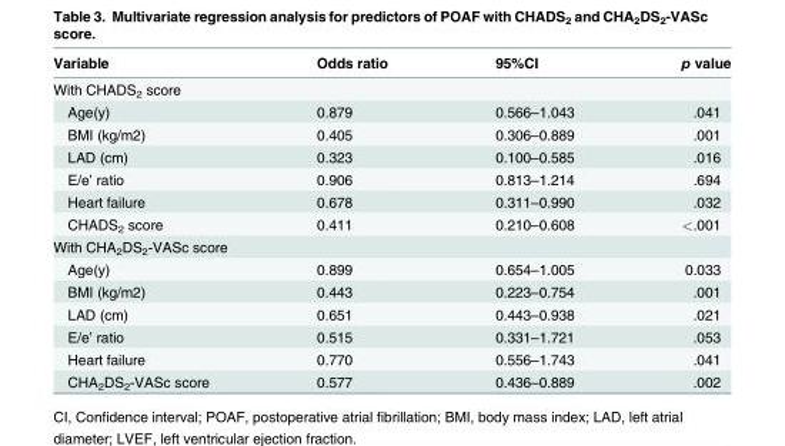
<table><thead><tr><td>Variable</td><td>Odds ratio</td><td>95%CI</td><td>p value</td></tr></thead><tbody><tr><td colspan="4">With CHADS<sub>2</sub> score</td></tr><tr><td>Age(y)</td><td>0.879</td><td>0.566–1.043</td><td>.041</td></tr><tr><td>BMI (kg/m2)</td><td>0.405</td><td>0.306–0.889</td><td>.001</td></tr><tr><td>LAD (cm)</td><td>0.323</td><td>0.100–0.585</td><td>.016</td></tr><tr><td>E/e’ ratio</td><td>0.906</td><td>0.813–1.214</td><td>.694</td></tr><tr><td>Heart failure</td><td>0.678</td><td>0.311–0.990</td><td>.032</td></tr><tr><td>CHADS<sub>2</sub> score</td><td>0.411</td><td>0.210–0.608</td><td>&lt;.001</td></tr><tr><td colspan="4">With CHA<sub>2</sub>DS<sub>2</sub>-VASc score</td></tr><tr><td>Age(y)</td><td>0.899</td><td>0.654–1.005</td><td>0.033</td></tr><tr><td>BMI (kg/m2)</td><td>0.443</td><td>0.223–0.754</td><td>.001</td></tr><tr><td>LAD (cm)</td><td>0.651</td><td>0.443–0.938</td><td>.021</td></tr><tr><td>E/e’ ratio</td><td>0.515</td><td>0.331–1.721</td><td>.053</td></tr><tr><td>Heart failure</td><td>0.770</td><td>0.556–1.743</td><td>.041</td></tr><tr><td>CHA<sub>2</sub>DS<sub>2</sub>-VASc score</td><td>0.577</td><td>0.436–0.889</td><td>.002</td></tr></tbody></table>